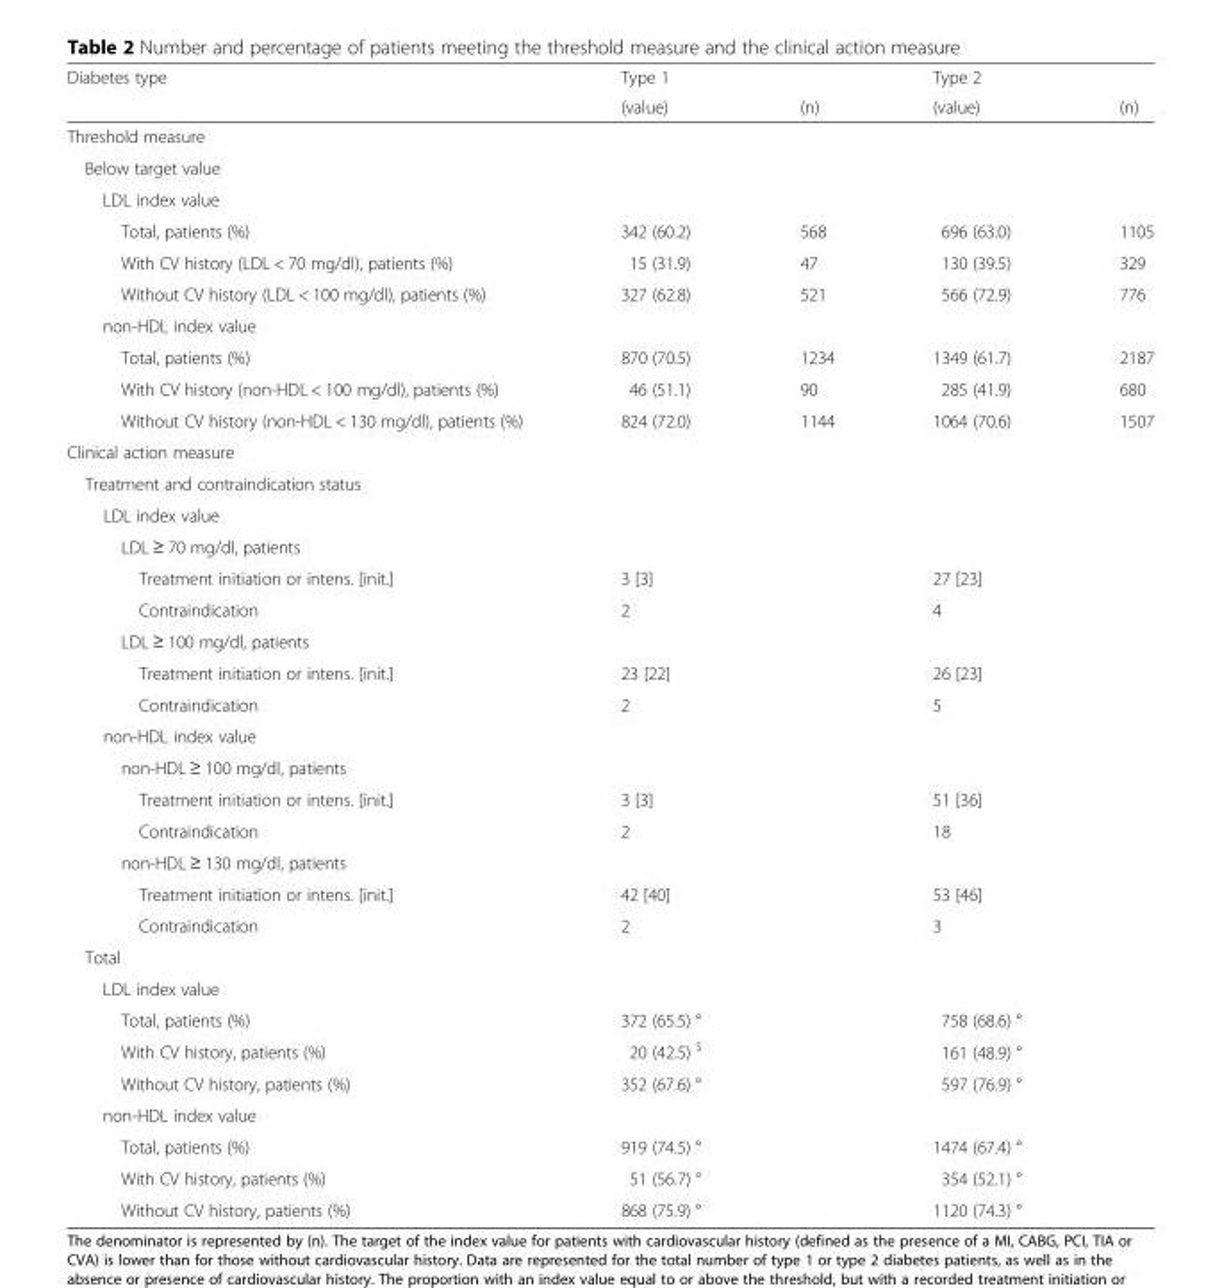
<table><thead><tr><td rowspan="2">Diabetes type</td><td rowspan="2">Type 1 (value)</td><td rowspan="2">(n)</td><td rowspan="2">Type 2 (value)</td><td rowspan="2">(n)</td></tr><tr></tr></thead><tbody><tr><td colspan="5">Threshold measure</td></tr><tr><td colspan="5">Below target value</td></tr><tr><td colspan="5">LDL index value</td></tr><tr><td>Total, patients (%)</td><td>342 (60.2)</td><td>568</td><td>696 (63.0)</td><td>1105</td></tr><tr><td>With CV history (LDL &lt; 70 mg/dl), patients (%)</td><td>15 (31.9)</td><td>47</td><td>130 (39.5)</td><td>329</td></tr><tr><td>Without CV history (LDL &lt; 100 mg/dl), patients (%)</td><td>327 (62.8)</td><td>521</td><td>566 (72.9)</td><td>776</td></tr><tr><td colspan="5">non-HDL index value</td></tr><tr><td>Total, patients (%)</td><td>870 (70.5)</td><td>1234</td><td>1349 (61.7)</td><td>2187</td></tr><tr><td>With CV history (non-HDL &lt; 100 mg/dl), patients (%)</td><td>46 (51.1)</td><td>90</td><td>285 (41.9)</td><td>680</td></tr><tr><td>Without CV history (non-HDL &lt; 130 mg/dl), patients (%)</td><td>824 (72.0)</td><td>1144</td><td>1064 (70.6)</td><td>1507</td></tr><tr><td colspan="5">Clinical action measure</td></tr><tr><td colspan="5">Treatment and contraindication status</td></tr><tr><td colspan="5">LDL index value</td></tr><tr><td colspan="5">LDL ≥ 70 mg/dl, patients</td></tr><tr><td>Treatment initiation or intens. [init.]</td><td>3 [3]</td><td></td><td>27 [23]</td><td></td></tr><tr><td>Contraindication</td><td>2</td><td></td><td>4</td><td></td></tr><tr><td colspan="5">LDL ≥ 100 mg/dl, patients</td></tr><tr><td>Treatment initiation or intens. [init.]</td><td>23 [22]</td><td></td><td>26 [23]</td><td></td></tr><tr><td>Contraindication</td><td>2</td><td></td><td>5</td><td></td></tr><tr><td colspan="5">non-HDL index value</td></tr><tr><td colspan="5">non-HDL ≥ 100 mg/dl, patients</td></tr><tr><td>Treatment initiation or intens. [init.]</td><td>3 [3]</td><td></td><td>51 [36]</td><td></td></tr><tr><td>Contraindication</td><td>2</td><td></td><td>18</td><td></td></tr><tr><td colspan="5">non-HDL ≥ 130 mg/dl, patients</td></tr><tr><td>Treatment initiation or intens. [init.]</td><td>42 [40]</td><td></td><td>53 [46]</td><td></td></tr><tr><td>Contraindication</td><td>2</td><td></td><td>3</td><td></td></tr><tr><td colspan="5">Total</td></tr><tr><td colspan="5">LDL index value</td></tr><tr><td>Total, patients (%)</td><td>372 (65.5) °</td><td></td><td>758 (68.6) °</td><td></td></tr><tr><td>With CV history, patients (%)</td><td>20 (42.5) <sup>$</sup></td><td></td><td>161 (48.9) °</td><td></td></tr><tr><td>Without CV history, patients (%)</td><td>352 (67.6) °</td><td></td><td>597 (76.9) °</td><td></td></tr><tr><td colspan="5">non-HDL index value</td></tr><tr><td>Total, patients (%)</td><td>919 (74.5) °</td><td></td><td>1474 (67.4) °</td><td></td></tr><tr><td>With CV history, patients (%)</td><td>51 (56.7) °</td><td></td><td>354 (52.1) °</td><td></td></tr><tr><td>Without CV history, patients (%)</td><td>868 (75.9) °</td><td></td><td>1120 (74.3) °</td><td></td></tr></tbody></table>